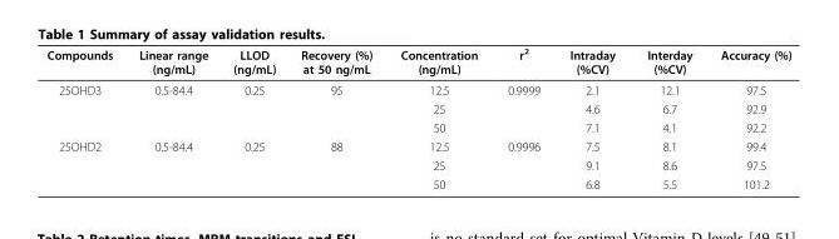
<table><thead><tr><td>Compounds</td><td>Linear range (ng/mL)</td><td>LLOD (ng/mL)</td><td>Recovery (%) at 50 ng/mL</td><td>Concentration (ng/mL)</td><td>r<sup>2</sup></td><td>Intraday (%CV)</td><td>Interday (%CV)</td><td>Accuracy (%)</td></tr></thead><tbody><tr><td rowspan="3">25OHD3</td><td>0.5-84.4</td><td>0.25</td><td>95</td><td>12.5</td><td>0.9999</td><td>2.1</td><td>12.1</td><td>97.5</td></tr><tr><td></td><td></td><td></td><td>25</td><td></td><td>4.6</td><td>6.7</td><td>92.9</td></tr><tr><td></td><td></td><td></td><td>50</td><td></td><td>7.1</td><td>4.1</td><td>92.2</td></tr><tr><td rowspan="3">25OHD2</td><td>0.5-84.4</td><td>0.25</td><td>88</td><td>12.5</td><td>0.9996</td><td>7.5</td><td>8.1</td><td>99.4</td></tr><tr><td></td><td></td><td></td><td>25</td><td></td><td>9.1</td><td>8.6</td><td>97.5</td></tr><tr><td></td><td></td><td></td><td>50</td><td></td><td>6.8</td><td>5.5</td><td>101.2</td></tr></tbody></table>